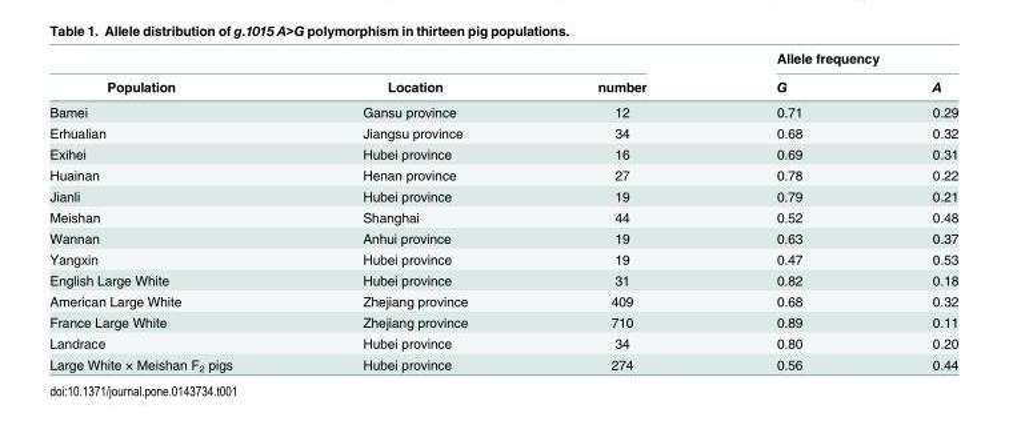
<table><thead><tr><td rowspan="2">Population</td><td rowspan="2">Location</td><td rowspan="2">number</td><td colspan="2">Allele frequency</td></tr><tr><td>G</td><td>A</td></tr></thead><tbody><tr><td>Bamei</td><td>Gansu province</td><td>12</td><td>0.71</td><td>0.29</td></tr><tr><td>Erhualian</td><td>Jiangsu province</td><td>34</td><td>0.68</td><td>0.32</td></tr><tr><td>Exihei</td><td>Hubei province</td><td>16</td><td>0.69</td><td>0.31</td></tr><tr><td>Huainan</td><td>Henan province</td><td>27</td><td>0.78</td><td>0.22</td></tr><tr><td>Jianli</td><td>Hubei province</td><td>19</td><td>0.79</td><td>0.21</td></tr><tr><td>Meishan</td><td>Shanghai</td><td>44</td><td>0.52</td><td>0.48</td></tr><tr><td>Wannan</td><td>Anhui province</td><td>19</td><td>0.63</td><td>0.37</td></tr><tr><td>Yangxin</td><td>Hubei province</td><td>19</td><td>0.47</td><td>0.53</td></tr><tr><td>English Large White</td><td>Hubei province</td><td>31</td><td>0.82</td><td>0.18</td></tr><tr><td>American Large White</td><td>Zhejiang province</td><td>409</td><td>0.68</td><td>0.32</td></tr><tr><td>France Large White</td><td>Zhejiang province</td><td>710</td><td>0.89</td><td>0.11</td></tr><tr><td>Landrace</td><td>Hubei province</td><td>34</td><td>0.80</td><td>0.20</td></tr><tr><td>Large White × Meishan F<sub>2</sub> pigs</td><td>Hubei province</td><td>274</td><td>0.56</td><td>0.44</td></tr></tbody></table>